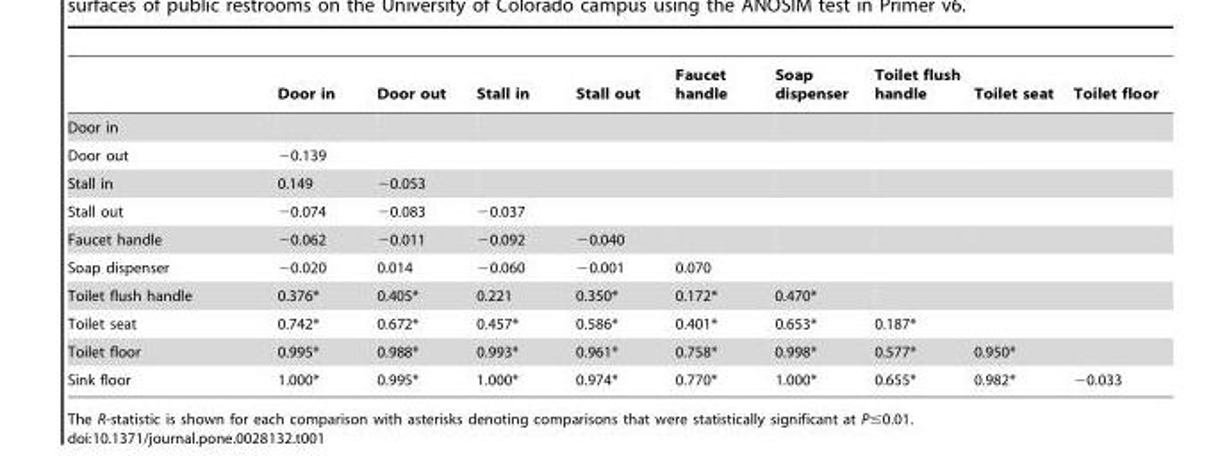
<table><thead><tr><td></td><td>Door in</td><td>Door out</td><td>Stall in</td><td>Stall out</td><td>Faucet handle</td><td>Soap dispenser</td><td>Toilet flush handle</td><td>Toilet seat</td><td>Toilet floor</td></tr></thead><tbody><tr><td colspan="10">Door in</td></tr><tr><td>Door out</td><td>−0.139</td><td></td><td></td><td></td><td></td><td></td><td></td><td></td><td></td></tr><tr><td>Stall in</td><td>0.149</td><td>−0.053</td><td></td><td></td><td></td><td></td><td></td><td></td><td></td></tr><tr><td>Stall out</td><td>−0.074</td><td>−0.083</td><td>−0.037</td><td></td><td></td><td></td><td></td><td></td><td></td></tr><tr><td>Faucet handle</td><td>−0.062</td><td>−0.011</td><td>−0.092</td><td>−0.040</td><td></td><td></td><td></td><td></td><td></td></tr><tr><td>Soap dispenser</td><td>−0.020</td><td>0.014</td><td>−0.060</td><td>−0.001</td><td>0.070</td><td></td><td></td><td></td><td></td></tr><tr><td>Toilet flush handle</td><td>0.376*</td><td>0.405*</td><td>0.221</td><td>0.350*</td><td>0.172*</td><td>0.470*</td><td></td><td></td><td></td></tr><tr><td>Toilet seat</td><td>0.742*</td><td>0.672*</td><td>0.457*</td><td>0.586*</td><td>0.401*</td><td>0.653*</td><td>0.187*</td><td></td><td></td></tr><tr><td>Toilet floor</td><td>0.995*</td><td>0.988*</td><td>0.993*</td><td>0.961*</td><td>0.758*</td><td>0.998*</td><td>0.577*</td><td>0.950*</td><td></td></tr><tr><td>Sink floor</td><td>1.000*</td><td>0.995*</td><td>1.000*</td><td>0.974*</td><td>0.770*</td><td>1.000*</td><td>0.655*</td><td>0.982*</td><td>−0.033</td></tr></tbody></table>